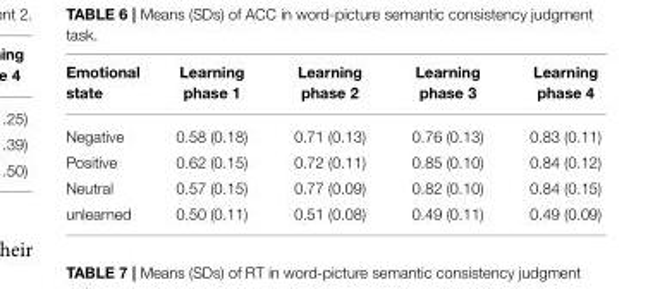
<table><thead><tr><td>Emotional state</td><td>Learning phase 1</td><td>Learning phase 2</td><td>Learning phase 3</td><td>Learning phase 4</td></tr></thead><tbody><tr><td>Negative</td><td>0.58 (0.18)</td><td>0.71 (0.13)</td><td>0.76 (0.13)</td><td>0.83 (0.11)</td></tr><tr><td>Positive</td><td>0.62 (0.15)</td><td>0.72 (0.11)</td><td>0.85 (0.10)</td><td>0.84 (0.12)</td></tr><tr><td>Neutral</td><td>0.57 (0.15)</td><td>0.77 (0.09)</td><td>0.82 (0.10)</td><td>0.84 (0.15)</td></tr><tr><td>unlearned</td><td>0.50 (0.11)</td><td>0.51 (0.08)</td><td>0.49 (0.11)</td><td>0.49 (0.09)</td></tr></tbody></table>